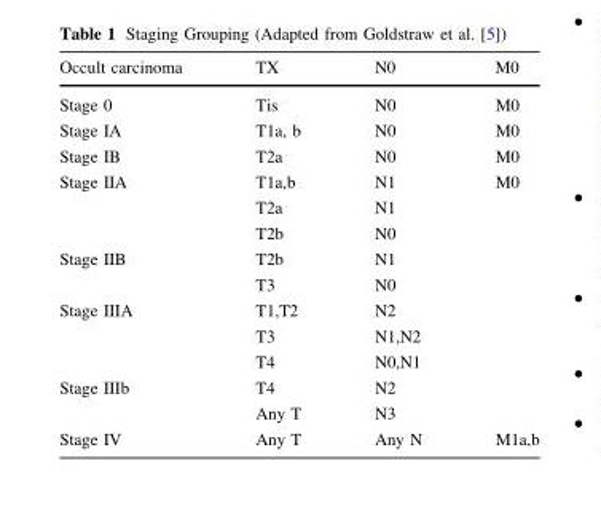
<table><thead><tr><td>Occult carcinoma</td><td>TX</td><td>N0</td><td>M0</td></tr></thead><tbody><tr><td>Stage 0</td><td>Tis</td><td>N0</td><td>M0</td></tr><tr><td>Stage IA</td><td>T1a, b</td><td>N0</td><td>M0</td></tr><tr><td>Stage IB</td><td>T2a</td><td>N0</td><td>M0</td></tr><tr><td rowspan="3">Stage IIA</td><td>T1a,b</td><td>N1</td><td>M0</td></tr><tr><td>T2a</td><td>N1</td><td></td></tr><tr><td>T2b</td><td>N0</td><td></td></tr><tr><td rowspan="2">Stage IIB</td><td>T2b</td><td>N1</td><td></td></tr><tr><td>T3</td><td>N0</td><td></td></tr><tr><td rowspan="3">Stage IIIA</td><td>T1,T2</td><td>N2</td><td></td></tr><tr><td>T3</td><td>N1,N2</td><td></td></tr><tr><td>T4</td><td>N0,N1</td><td></td></tr><tr><td rowspan="2">Stage IIIb</td><td>T4</td><td>N2</td><td></td></tr><tr><td>Any T</td><td>N3</td><td></td></tr><tr><td>Stage IV</td><td>Any T</td><td>Any N</td><td>M1a,b</td></tr></tbody></table>